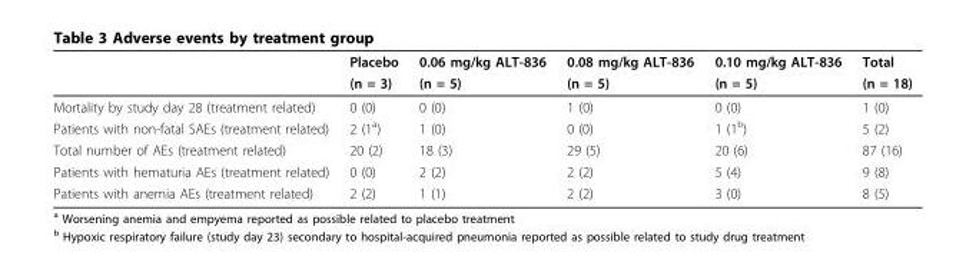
<table><thead><tr><td rowspan="2"></td><td rowspan="2">Placebo (n = 3)</td><td rowspan="2">0.06 mg/kg ALT-836 (n = 5)</td><td rowspan="2">0.08 mg/kg ALT-836 (n = 5)</td><td rowspan="2">0.10 mg/kg ALT-836 (n = 5)</td><td rowspan="2">Total (n = 18)</td></tr><tr></tr></thead><tbody><tr><td>Mortality by study day 28 (treatment related)</td><td>0 (0)</td><td>0 (0)</td><td>1 (0)</td><td>0 (0)</td><td>1 (0)</td></tr><tr><td>Patients with non-fatal SAEs (treatment related)</td><td>2 (1<sup>a</sup>)</td><td>1 (0)</td><td>0 (0)</td><td>1 (1<sup>b</sup>)</td><td>5 (2)</td></tr><tr><td>Total number of AEs (treatment related)</td><td>20 (2)</td><td>18 (3)</td><td>29 (5)</td><td>20 (6)</td><td>87 (16)</td></tr><tr><td>Patients with hematuria AEs (treatment related)</td><td>0 (0)</td><td>2 (2)</td><td>2 (2)</td><td>5 (4)</td><td>9 (8)</td></tr><tr><td>Patients with anemia AEs (treatment related)</td><td>2 (2)</td><td>1 (1)</td><td>2 (2)</td><td>3 (0)</td><td>8 (5)</td></tr></tbody></table>